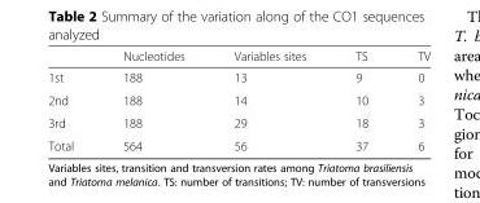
<table><thead><tr><td></td><td>Nucleotides</td><td>Variables sites</td><td>TS</td><td>TV</td></tr></thead><tbody><tr><td>1st</td><td>188</td><td>13</td><td>9</td><td>0</td></tr><tr><td>2nd</td><td>188</td><td>14</td><td>10</td><td>3</td></tr><tr><td>3rd</td><td>188</td><td>29</td><td>18</td><td>3</td></tr><tr><td>Total</td><td>564</td><td>56</td><td>37</td><td>6</td></tr></tbody></table>